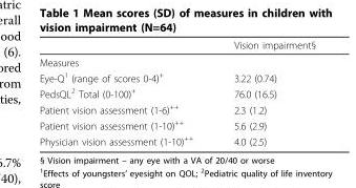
<table><thead><tr><td></td><td>Vision impairment§</td></tr></thead><tbody><tr><td colspan="2">Measures</td></tr><tr><td>Eye-Q<sup>1</sup> (range of scores 0-4)<sup>+</sup></td><td>3.22 (0.74)</td></tr><tr><td>PedsQL<sup>2</sup> Total (0-100)<sup>+</sup></td><td>76.0 (16.5)</td></tr><tr><td>Patient vision assessment (1-6)<sup>++</sup></td><td>2.3 (1.2)</td></tr><tr><td>Patient vision assessment (1-10)<sup>++</sup></td><td>5.6 (2.9)</td></tr><tr><td>Physician vision assessment (1-10)<sup>++</sup></td><td>4.0 (2.5)</td></tr></tbody></table>